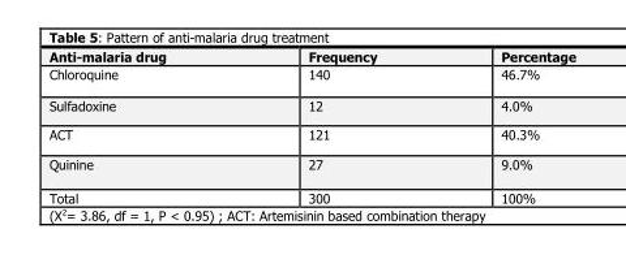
<table><thead><tr><td>Anti-malaria drug</td><td>Frequency</td><td>Percentage</td></tr></thead><tbody><tr><td>Chloroquine</td><td>140</td><td>46.7%</td></tr><tr><td>Sulfadoxine</td><td>12</td><td>4.0%</td></tr><tr><td>ACT</td><td>121</td><td>40.3%</td></tr><tr><td>Quinine</td><td>27</td><td>9.0%</td></tr><tr><td>Total</td><td>300</td><td>100%</td></tr></tbody></table>